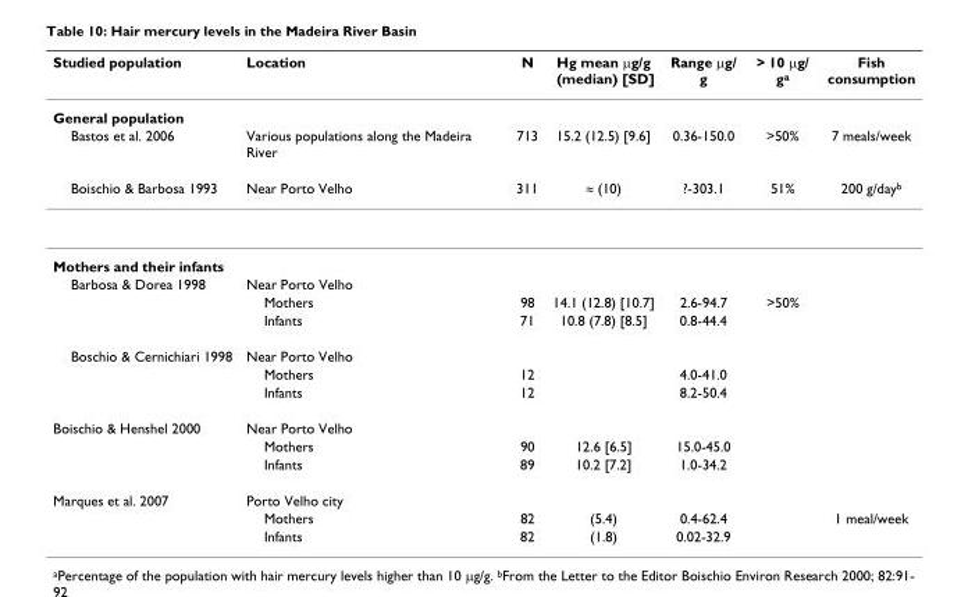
<table><thead><tr><td>Studied population</td><td>Location</td><td>N</td><td>Hg mean μg/g (median) [SD]</td><td>Range μg/ g</td><td>&gt; 10 μg/ ga</td><td>Fish consumption</td></tr></thead><tbody><tr><td colspan="7">General population</td></tr><tr><td>Bastos et al. 2006</td><td>Various populations along the Madeira River</td><td>713</td><td>15.2 (12.5) [9.6]</td><td>0.36-150.0</td><td>&gt;50%</td><td>7 meals/week</td></tr><tr><td>Boischio &amp; Barbosa 1993</td><td>Near Porto Velho</td><td>311</td><td>≈ (10)</td><td>?-303.1</td><td>51%</td><td>200 g/dayb</td></tr><tr><td colspan="7">Mothers and their infants</td></tr><tr><td rowspan="3">Barbosa &amp; Dorea 1998</td><td>Near Porto Velho</td><td></td><td></td><td></td><td></td><td></td></tr><tr><td>Mothers</td><td>98</td><td>14.1 (12.8) [10.7]</td><td>2.6-94.7</td><td>&gt;50%</td><td></td></tr><tr><td>Infants</td><td>71</td><td>10.8 (7.8) [8.5]</td><td>0.8-44.4</td><td></td><td></td></tr><tr><td rowspan="3">Boschio &amp; Cernichiari 1998</td><td>Near Porto Velho</td><td></td><td></td><td></td><td></td><td></td></tr><tr><td>Mothers</td><td>12</td><td></td><td>4.0-41.0</td><td></td><td></td></tr><tr><td>Infants</td><td>12</td><td></td><td>8.2-50.4</td><td></td><td></td></tr><tr><td rowspan="3">Boischio &amp; Henshel 2000</td><td>Near Porto Velho</td><td></td><td></td><td></td><td></td><td></td></tr><tr><td>Mothers</td><td>90</td><td>12.6 [6.5]</td><td>15.0-45.0</td><td></td><td></td></tr><tr><td>Infants</td><td>89</td><td>10.2 [7.2]</td><td>1.0-34.2</td><td></td><td></td></tr><tr><td rowspan="3">Marques et al. 2007</td><td>Porto Velho city</td><td></td><td></td><td></td><td></td><td></td></tr><tr><td>Mothers</td><td>82</td><td>(5.4)</td><td>0.4-62.4</td><td></td><td>1 meal/week</td></tr><tr><td>Infants</td><td>82</td><td>(1.8)</td><td>0.02-32.9</td><td></td><td></td></tr></tbody></table>